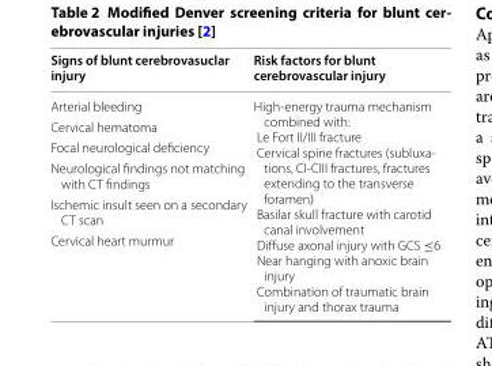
<table><thead><tr><td>Signs of blunt cerebrovasuclar injury</td><td>Risk factors for blunt cerebrovascular injury</td></tr></thead><tbody><tr><td>Arterial bleeding</td><td rowspan="6">High‑energy trauma mechanism combined with: Le Fort II/III fracture Cervical spine fractures (subluxa‑ tions, CI‑CIII fractures, fractures extending to the transverse foramen) Basilar skull fracture with carotid canal involvement Diffuse axonal injury with GCS ≤6 Near hanging with anoxic brain injury Combination of traumatic brain injury and thorax trauma</td></tr><tr><td>Cervical hematoma</td></tr><tr><td>Focal neurological deficiency</td></tr><tr><td>Neurological findings not matching with CT findings</td></tr><tr><td>Ischemic insult seen on a secondary CT scan</td></tr><tr><td>Cervical heart murmur</td></tr></tbody></table>